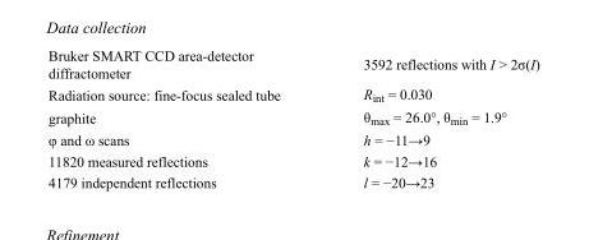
<table><tbody><tr><td>Bruker SMART CCD area-detector diffractometer</td><td>3592 reflections with I &gt; 2σ(I)</td></tr><tr><td>Radiation source: fine-focus sealed tube</td><td>R<sub>int</sub> = 0.030</td></tr><tr><td>graphite</td><td>θ<sub>max</sub> = 26.0°, θ<sub>min</sub> = 1.9°</td></tr><tr><td>φ and ω scans</td><td>h = −11→9</td></tr><tr><td>11820 measured reflections</td><td>k = −12→16</td></tr><tr><td>4179 independent reflections</td><td>l = −20→23</td></tr></tbody></table>